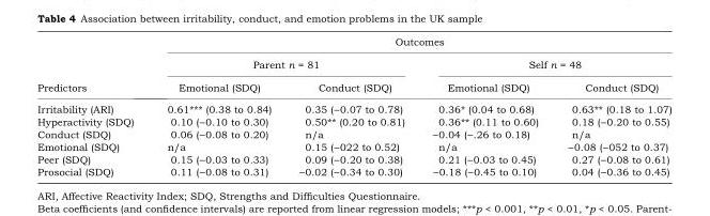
<table><thead><tr><td rowspan="3">Predictors</td><td colspan="4">Outcomes</td></tr><tr><td colspan="2">Parent n = 81</td><td colspan="2">Self n = 48</td></tr><tr><td>Emotional (SDQ)</td><td>Conduct (SDQ)</td><td>Emotional (SDQ)</td><td>Conduct (SDQ)</td></tr></thead><tbody><tr><td>Irritability (ARI)</td><td>0.61*** (0.38 to 0.84)</td><td>0.35 (−0.07 to 0.78)</td><td>0.36* (0.04 to 0.68)</td><td>0.63** (0.18 to 1.07)</td></tr><tr><td>Hyperactivity (SDQ)</td><td>0.10 (−0.10 to 0.30)</td><td>0.50** (0.20 to 0.81)</td><td>0.36** (0.11 to 0.60)</td><td>0.18 (−0.20 to 0.55)</td></tr><tr><td>Conduct (SDQ)</td><td>0.06 (−0.08 to 0.20)</td><td>n/a</td><td>−0.04 (−.26 to 0.18)</td><td>n/a</td></tr><tr><td>Emotional (SDQ)</td><td>n/a</td><td>0.15 (−022 to 0.52)</td><td>n/a</td><td>−0.08 (−052 to 0.37)</td></tr><tr><td>Peer (SDQ)</td><td>0.15 (−0.03 to 0.33)</td><td>0.09 (−0.20 to 0.38)</td><td>0.21 (−0.03 to 0.45)</td><td>0.27 (−0.08 to 0.61)</td></tr><tr><td>Prosocial (SDQ)</td><td>0.11 (−0.08 to 0.31)</td><td>−0.02 (−0.34 to 0.30)</td><td>−0.18 (−0.45 to 0.10)</td><td>0.04 (−0.36 to 0.45)</td></tr></tbody></table>